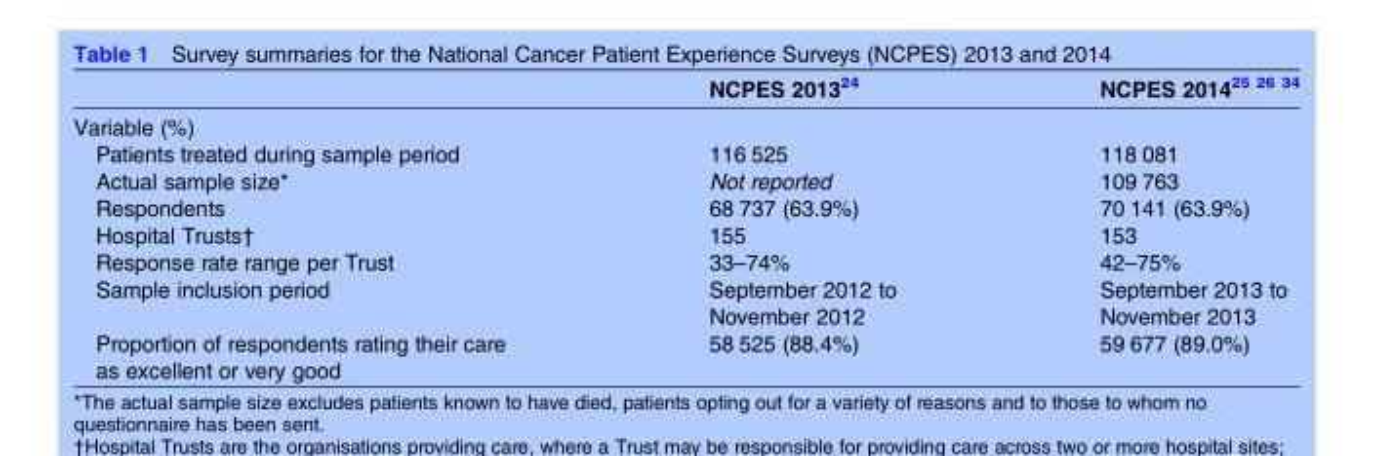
<table><thead><tr><td></td><td>NCPES 2013<sup>24</sup></td><td>NCPES 2014<sup>25 26 34</sup></td></tr></thead><tbody><tr><td colspan="3">Variable (%)</td></tr><tr><td>Patients treated during sample period</td><td>116 525</td><td>118 081</td></tr><tr><td>Actual sample size*</td><td>Not reported</td><td>109 763</td></tr><tr><td>Respondents</td><td>68 737 (63.9%)</td><td>70 141 (63.9%)</td></tr><tr><td>Hospital Trusts†</td><td>155</td><td>153</td></tr><tr><td>Response rate range per Trust</td><td>33–74%</td><td>42–75%</td></tr><tr><td>Sample inclusion period</td><td>September 2012 to November 2012</td><td>September 2013 to November 2013</td></tr><tr><td>Proportion of respondents rating their care as excellent or very good</td><td>58 525 (88.4%)</td><td>59 677 (89.0%)</td></tr></tbody></table>